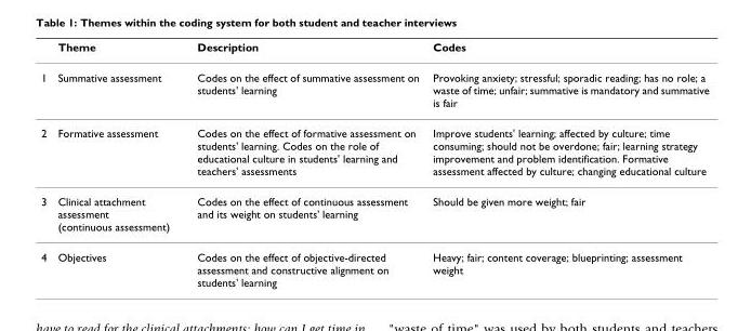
<table><thead><tr><td></td><td>Theme</td><td>Description</td><td>Codes</td></tr></thead><tbody><tr><td>1</td><td>Summative assessment</td><td>Codes on the effect of summative assessment on students&#x27; learning</td><td>Provoking anxiety; stressful; sporadic reading; has no role; a waste of time; unfair; summative is mandatory and summative is fair</td></tr><tr><td>2</td><td>Formative assessment</td><td>Codes on the effect of formative assessment on students&#x27; learning. Codes on the role of educational culture in students&#x27; learning and teachers&#x27; assessments</td><td>Improve students&#x27; learning; affected by culture; time consuming; should not be overdone; fair; learning strategy improvement and problem identification. Formative assessment affected by culture; changing educational culture</td></tr><tr><td>3</td><td>Clinical attachment assessment (continuous assessment)</td><td>Codes on the effect of continuous assessment and its weight on students&#x27; learning</td><td>Should be given more weight; fair</td></tr><tr><td>4</td><td>Objectives</td><td>Codes on the effect of objective-directed assessment and constructive alignment on students&#x27; learning</td><td>Heavy; fair; content coverage; blueprinting; assessment weight</td></tr></tbody></table>